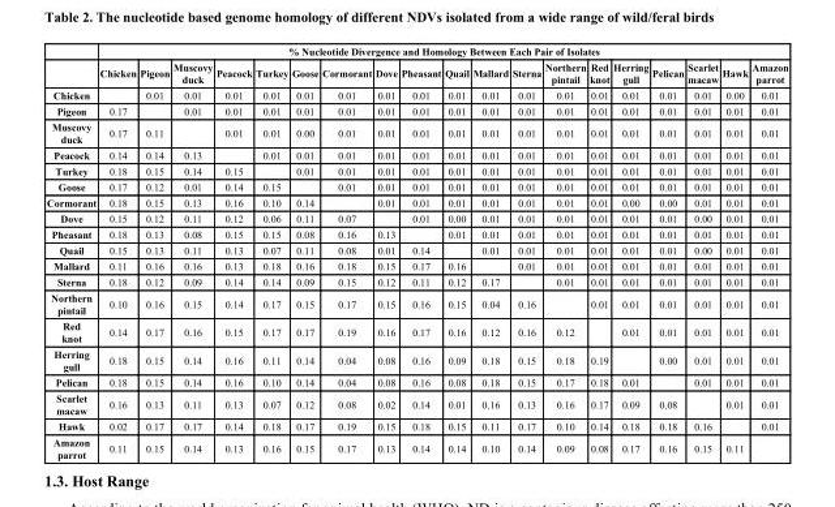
<table><thead><tr><td rowspan="2"></td><td colspan="19">% Nucleotide Divergence and Homology Between Each Pair of Isolates</td></tr><tr><td>Chicken</td><td>Pigeon</td><td>Muscovy duck</td><td>Peacock</td><td>Turkey</td><td>Goose</td><td>Cormorant</td><td>Dove</td><td>Pheasant</td><td>Quail</td><td>Mallard</td><td>Sterna</td><td>Northern pintail</td><td>Red knot</td><td>Herring gull</td><td>Pelican</td><td>Scarlet macaw</td><td>Hawk</td><td>Amazon parrot</td></tr></thead><tbody><tr><td>Chicken</td><td></td><td>0.01</td><td>0.01</td><td>0.01</td><td>0.01</td><td>0.01</td><td>0.01</td><td>0.01</td><td>0.01</td><td>0.01</td><td>0.01</td><td>0.01</td><td>0.01</td><td>0.01</td><td>0.01</td><td>0.01</td><td>0.01</td><td>0.00</td><td>0.01</td></tr><tr><td>Pigeon</td><td>0.17</td><td></td><td>0.01</td><td>0.01</td><td>0.01</td><td>0.01</td><td>0.01</td><td>0.01</td><td>0.01</td><td>0.01</td><td>0.01</td><td>0.01</td><td>0.01</td><td>0.01</td><td>0.01</td><td>0.01</td><td>0.01</td><td>0.01</td><td>0.01</td></tr><tr><td>Muscovy duck</td><td>0.17</td><td>0.11</td><td></td><td>0.01</td><td>0.01</td><td>0.00</td><td>0.01</td><td>0.01</td><td>0.01</td><td>0.01</td><td>0.01</td><td>0.01</td><td>0.01</td><td>0.01</td><td>0.01</td><td>0.01</td><td>0.01</td><td>0.01</td><td>0.01</td></tr><tr><td>Peacock</td><td>0.14</td><td>0.14</td><td>0.13</td><td></td><td>0.01</td><td>0.01</td><td>0.01</td><td>0.01</td><td>0.01</td><td>0.01</td><td>0.01</td><td>0.01</td><td>0.01</td><td>0.01</td><td>0.01</td><td>0.01</td><td>0.01</td><td>0.01</td><td>0.01</td></tr><tr><td>Turkey</td><td>0.18</td><td>0.15</td><td>0.14</td><td>0.15</td><td></td><td>0.01</td><td>0.01</td><td>0.01</td><td>0.01</td><td>0.01</td><td>0.01</td><td>0.01</td><td>0.01</td><td>0.01</td><td>0.01</td><td>0.01</td><td>0.01</td><td>0.01</td><td>0.01</td></tr><tr><td>Goose</td><td>0.17</td><td>0.12</td><td>0.01</td><td>0.14</td><td>0.15</td><td></td><td>0.01</td><td>0.01</td><td>0.01</td><td>0.01</td><td>0.01</td><td>0.01</td><td>0.01</td><td>0.01</td><td>0.01</td><td>0.01</td><td>0.01</td><td>0.01</td><td>0.01</td></tr><tr><td>Cormorant</td><td>0.18</td><td>0.15</td><td>0.13</td><td>0.16</td><td>0.10</td><td>0.14</td><td></td><td>0.01</td><td>0.01</td><td>0.01</td><td>0.01</td><td>0.01</td><td>0.01</td><td>0.01</td><td>0.00</td><td>0.00</td><td>0.01</td><td>0.01</td><td>0.01</td></tr><tr><td>Dove</td><td>0.15</td><td>0.12</td><td>0.11</td><td>0.12</td><td>0.06</td><td>0.11</td><td>0.07</td><td></td><td>0.01</td><td>0.00</td><td>0.01</td><td>0.01</td><td>0.01</td><td>0.01</td><td>0.01</td><td>0.01</td><td>0.00</td><td>0.01</td><td>0.01</td></tr><tr><td>Pheasant</td><td>0.18</td><td>0.13</td><td>0.08</td><td>0.15</td><td>0.15</td><td>0.08</td><td>0.16</td><td>0.13</td><td></td><td>0.01</td><td>0.01</td><td>0.01</td><td>0.01</td><td>0.01</td><td>0.01</td><td>0.01</td><td>0.01</td><td>0.01</td><td>0.01</td></tr><tr><td>Quail</td><td>0.15</td><td>0.13</td><td>0.11</td><td>0.13</td><td>0.07</td><td>0.11</td><td>0.08</td><td>0.01</td><td>0.14</td><td></td><td>0.01</td><td>0.01</td><td>0.01</td><td>0.01</td><td>0.01</td><td>0.01</td><td>0.00</td><td>0.01</td><td>0.01</td></tr><tr><td>Mallard</td><td>0.11</td><td>0.16</td><td>0.16</td><td>0.13</td><td>0.18</td><td>0.16</td><td>0.18</td><td>0.15</td><td>0.17</td><td>0.16</td><td></td><td>0.01</td><td>0.01</td><td>0.01</td><td>0.01</td><td>0.01</td><td>0.01</td><td>0.01</td><td>0.01</td></tr><tr><td>Sterna</td><td>0.18</td><td>0.12</td><td>0.09</td><td>0.14</td><td>0.14</td><td>0.09</td><td>0.15</td><td>0.12</td><td>0.11</td><td>0.12</td><td>0.17</td><td></td><td>0.01</td><td>0.01</td><td>0.01</td><td>0.01</td><td>0.01</td><td>0.01</td><td>0.01</td></tr><tr><td>Northern pintail</td><td>0.10</td><td>0.16</td><td>0.15</td><td>0.14</td><td>0.17</td><td>0.15</td><td>0.17</td><td>0.15</td><td>0.16</td><td>0.15</td><td>0.04</td><td>0.16</td><td></td><td>0.01</td><td>0.01</td><td>0.01</td><td>0.01</td><td>0.01</td><td>0.01</td></tr><tr><td>Red knot</td><td>0.14</td><td>0.17</td><td>0.16</td><td>0.15</td><td>0.17</td><td>0.17</td><td>0.19</td><td>0.16</td><td>0.17</td><td>0.16</td><td>0.12</td><td>0.16</td><td>0.12</td><td></td><td>0.01</td><td>0.01</td><td>0.01</td><td>0.01</td><td>0.01</td></tr><tr><td>Herring gull</td><td>0.18</td><td>0.15</td><td>0.14</td><td>0.16</td><td>0.11</td><td>0.14</td><td>0.04</td><td>0.08</td><td>0.16</td><td>0.09</td><td>0.18</td><td>0.15</td><td>0.18</td><td>0.19</td><td></td><td>0.00</td><td>0.01</td><td>0.01</td><td>0.01</td></tr><tr><td>Pelican</td><td>0.18</td><td>0.15</td><td>0.14</td><td>0.16</td><td>0.10</td><td>0.14</td><td>0.04</td><td>0.08</td><td>0.16</td><td>0.08</td><td>0.18</td><td>0.15</td><td>0.17</td><td>0.18</td><td>0.01</td><td></td><td>0.01</td><td>0.01</td><td>0.01</td></tr><tr><td>Scarlet macaw</td><td>0.16</td><td>0.13</td><td>0.11</td><td>0.13</td><td>0.07</td><td>0.12</td><td>0.08</td><td>0.02</td><td>0.14</td><td>0.01</td><td>0.16</td><td>0.13</td><td>0.16</td><td>0.17</td><td>0.09</td><td>0.08</td><td></td><td>0.01</td><td>0.01</td></tr><tr><td>Hawk</td><td>0.02</td><td>0.17</td><td>0.17</td><td>0.14</td><td>0.18</td><td>0.17</td><td>0.19</td><td>0.15</td><td>0.18</td><td>0.15</td><td>0.11</td><td>0.17</td><td>0.10</td><td>0.14</td><td>0.18</td><td>0.18</td><td>0.16</td><td></td><td>0.01</td></tr><tr><td>Amazon parrot</td><td>0.11</td><td>0.15</td><td>0.14</td><td>0.13</td><td>0.16</td><td>0.15</td><td>0.17</td><td>0.13</td><td>0.14</td><td>0.14</td><td>0.10</td><td>0.14</td><td>0.09</td><td>0.08</td><td>0.17</td><td>0.16</td><td>0.15</td><td>0.11</td><td></td></tr></tbody></table>